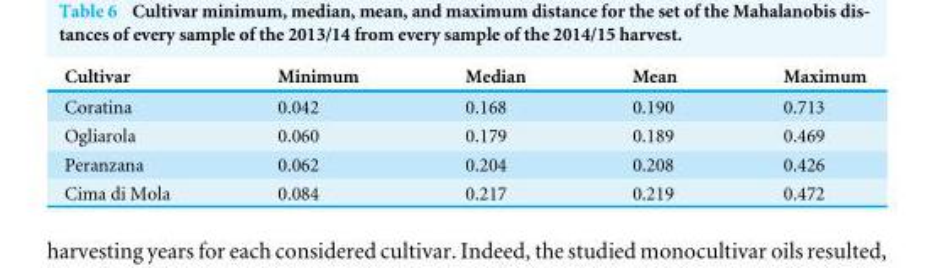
<table><thead><tr><td>Cultivar</td><td>Minimum</td><td>Median</td><td>Mean</td><td>Maximum</td></tr></thead><tbody><tr><td>Coratina</td><td>0.042</td><td>0.168</td><td>0.190</td><td>0.713</td></tr><tr><td>Ogliarola</td><td>0.060</td><td>0.179</td><td>0.189</td><td>0.469</td></tr><tr><td>Peranzana</td><td>0.062</td><td>0.204</td><td>0.208</td><td>0.426</td></tr><tr><td>Cima di Mola</td><td>0.084</td><td>0.217</td><td>0.219</td><td>0.472</td></tr></tbody></table>